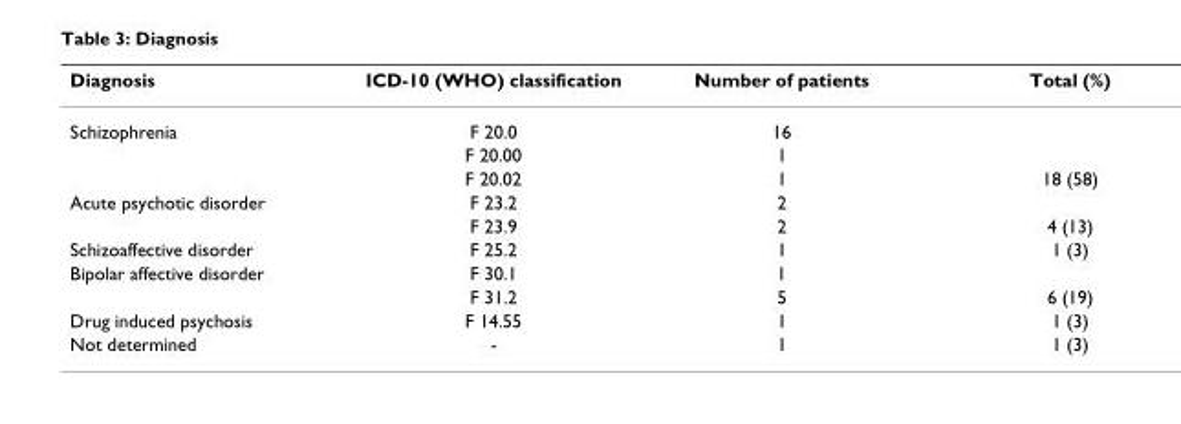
<table><thead><tr><td>Diagnosis</td><td>ICD-10 (WHO) classification</td><td>Number of patients</td><td>Total (%)</td></tr></thead><tbody><tr><td rowspan="3">Schizophrenia</td><td>F 20.0</td><td>16</td><td></td></tr><tr><td>F 20.00</td><td>1</td><td></td></tr><tr><td>F 20.02</td><td>1</td><td>18 (58)</td></tr><tr><td rowspan="2">Acute psychotic disorder</td><td>F 23.2</td><td>2</td><td></td></tr><tr><td>F 23.9</td><td>2</td><td>4 (13)</td></tr><tr><td>Schizoaffective disorder</td><td>F 25.2</td><td>1</td><td>1 (3)</td></tr><tr><td rowspan="2">Bipolar affective disorder</td><td>F 30.1</td><td>1</td><td></td></tr><tr><td>F 31.2</td><td>5</td><td>6 (19)</td></tr><tr><td>Drug induced psychosis</td><td>F 14.55</td><td>1</td><td>1 (3)</td></tr><tr><td>Not determined</td><td>-</td><td>1</td><td>1 (3)</td></tr></tbody></table>